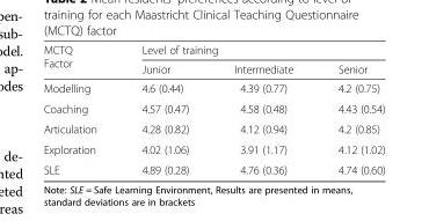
<table><thead><tr><td rowspan="2">MCTQ Factor</td><td colspan="3">Level of training</td></tr><tr><td>Junior</td><td>Intermediate</td><td>Senior</td></tr></thead><tbody><tr><td>Modelling</td><td>4.6 (0.44)</td><td>4.39 (0.77)</td><td>4.2 (0.75)</td></tr><tr><td>Coaching</td><td>4.57 (0.47)</td><td>4.58 (0.48)</td><td>4.43 (0.54)</td></tr><tr><td>Articulation</td><td>4.28 (0.82)</td><td>4.12 (0.94)</td><td>4.2 (0.85)</td></tr><tr><td>Exploration</td><td>4.02 (1.06)</td><td>3.91 (1.17)</td><td>4.12 (1.02)</td></tr><tr><td>SLE</td><td>4.89 (0.28)</td><td>4.76 (0.36)</td><td>4.74 (0.60)</td></tr></tbody></table>